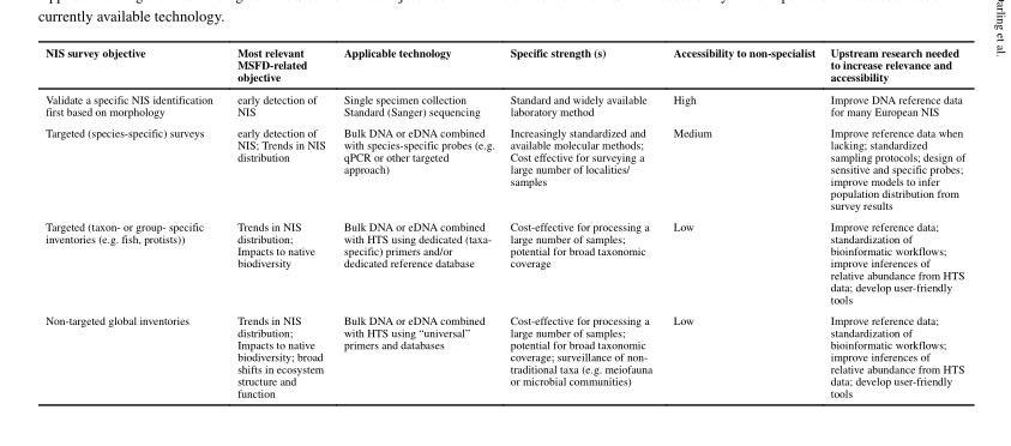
<table><thead><tr><td>NIS survey objective</td><td>Most relevant MSFD-related objective</td><td>Applicable technology</td><td>Specific strength (s)</td><td>Accessibility to non-specialist</td><td>Upstream research needed to increase relevance and accessibility</td></tr></thead><tbody><tr><td>Validate a specific NIS identification first based on morphology</td><td>early detection of NIS</td><td>Single specimen collection Standard (Sanger) sequencing</td><td>Standard and widely available laboratory method</td><td>High</td><td>Improve DNA reference data for many European NIS</td></tr><tr><td>Targeted (species-specific) surveys</td><td>early detection of NIS; Trends in NIS distribution</td><td>Bulk DNA or eDNA combined with species-specific probes (e.g. qPCR or other targeted approach)</td><td>Increasingly standardized and available molecular methods; Cost effective for surveying a large number of localities/ samples</td><td>Medium</td><td>Improve reference data when lacking; standardized sampling protocols; design of sensitive and specific probes; improve models to infer population distribution from survey results</td></tr><tr><td>Targeted (taxon- or group- specific inventories (e.g. fish, protists))</td><td>Trends in NIS distribution; Impacts to native biodiversity</td><td>Bulk DNA or eDNA combined with HTS using dedicated (taxa- specific) primers and/or dedicated reference database</td><td>Cost-effective for processing a large number of samples; potential for broad taxonomic coverage</td><td>Low</td><td>Improve reference data; standardization of bioinformatic workflows; improve inferences of relative abundance from HTS data; develop user-friendly tools</td></tr><tr><td>Non-targeted global inventories</td><td>Trends in NIS distribution; Impacts to native biodiversity; broad shifts in ecosystem structure and function</td><td>Bulk DNA or eDNA combined with HTS using “universal” primers and databases</td><td>Cost-effective for processing a large number of samples; potential for broad taxonomic coverage; surveillance of non- traditional taxa (e.g. meiofauna or microbial communities)</td><td>Low</td><td>Improve reference data; standardization of bioinformatic workflows; improve inferences of relative abundance from HTS data; develop user-friendly tools</td></tr></tbody></table>